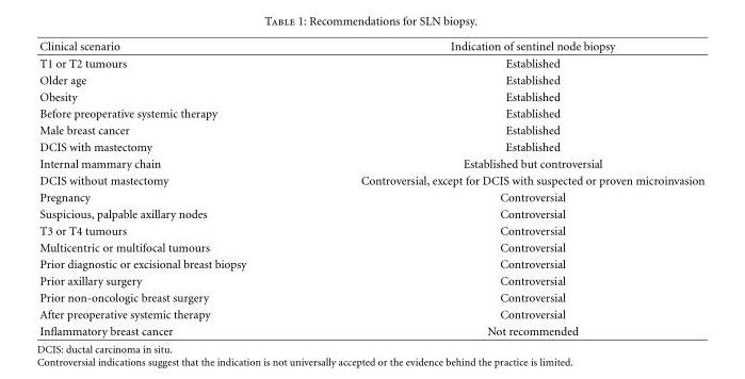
<table><thead><tr><td>Clinical scenario</td><td>Indication of sentinel node biopsy</td></tr></thead><tbody><tr><td>T1 or T2 tumours</td><td>Established</td></tr><tr><td>Older age</td><td>Established</td></tr><tr><td>Obesity</td><td>Established</td></tr><tr><td>Before preoperative systemic therapy</td><td>Established</td></tr><tr><td>Male breast cancer</td><td>Established</td></tr><tr><td>DCIS with mastectomy</td><td>Established</td></tr><tr><td>Internal mammary chain</td><td>Established but controversial</td></tr><tr><td>DCIS without mastectomy</td><td>Controversial, except for DCIS with suspected or proven microinvasion</td></tr><tr><td>Pregnancy</td><td>Controversial</td></tr><tr><td>Suspicious, palpable axillary nodes</td><td>Controversial</td></tr><tr><td>T3 or T4 tumours</td><td>Controversial</td></tr><tr><td>Multicentric or multifocal tumours</td><td>Controversial</td></tr><tr><td>Prior diagnostic or excisional breast biopsy</td><td>Controversial</td></tr><tr><td>Prior axillary surgery</td><td>Controversial</td></tr><tr><td>Prior non-oncologic breast surgery</td><td>Controversial</td></tr><tr><td>After preoperative systemic therapy</td><td>Controversial</td></tr><tr><td>Inflammatory breast cancer</td><td>Not recommended</td></tr></tbody></table>